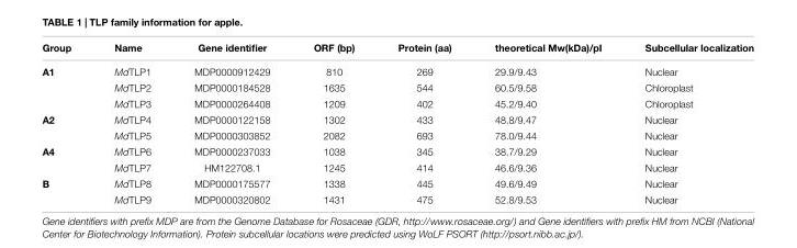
<table><thead><tr><td>Group</td><td>Name</td><td>Gene identifier</td><td>ORF (bp)</td><td>Protein (aa)</td><td>theoretical Mw(kDa)/pI</td><td>Subcellular localization</td></tr></thead><tbody><tr><td rowspan="3">A1</td><td>MdTLP1</td><td>MDP0000912429</td><td>810</td><td>269</td><td>29.9/9.43</td><td>Nuclear</td></tr><tr><td>MdTLP2</td><td>MDP0000184528</td><td>1635</td><td>544</td><td>60.5/9.58</td><td>Chloroplast</td></tr><tr><td>MdTLP3</td><td>MDP0000264408</td><td>1209</td><td>402</td><td>45.2/9.40</td><td>Chloroplast</td></tr><tr><td rowspan="2">A2</td><td>MdTLP4</td><td>MDP0000122158</td><td>1302</td><td>433</td><td>48.8/9.47</td><td>Nuclear</td></tr><tr><td>MdTLP5</td><td>MDP0000303852</td><td>2082</td><td>693</td><td>78.0/9.44</td><td>Nuclear</td></tr><tr><td rowspan="2">A4</td><td>MdTLP6</td><td>MDP0000237033</td><td>1038</td><td>345</td><td>38.7/9.29</td><td>Nuclear</td></tr><tr><td>MdTLP7</td><td>HM122708.1</td><td>1245</td><td>414</td><td>46.6/9.36</td><td>Nuclear</td></tr><tr><td rowspan="2">B</td><td>MdTLP8</td><td>MDP0000175577</td><td>1338</td><td>445</td><td>49.6/9.49</td><td>Nuclear</td></tr><tr><td>MdTLP9</td><td>MDP0000320802</td><td>1431</td><td>475</td><td>52.8/9.53</td><td>Nuclear</td></tr></tbody></table>